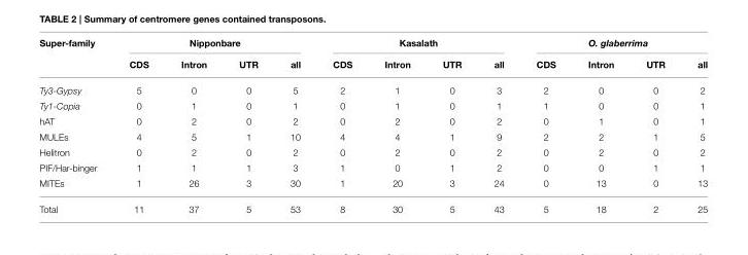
<table><thead><tr><td rowspan="2">Super-family</td><td colspan="4">Nipponbare</td><td colspan="4">Kasalath</td><td colspan="4">O. glaberrima</td></tr><tr><td>CDS</td><td>Intron</td><td>UTR</td><td>all</td><td>CDS</td><td>Intron</td><td>UTR</td><td>all</td><td>CDS</td><td>Intron</td><td>UTR</td><td>all</td></tr></thead><tbody><tr><td>Ty3-Gypsy</td><td>5</td><td>0</td><td>0</td><td>5</td><td>2</td><td>1</td><td>0</td><td>3</td><td>2</td><td>0</td><td>0</td><td>2</td></tr><tr><td>Ty1-Copia</td><td>0</td><td>1</td><td>0</td><td>1</td><td>0</td><td>1</td><td>0</td><td>1</td><td>1</td><td>0</td><td>0</td><td>1</td></tr><tr><td>hAT</td><td>0</td><td>2</td><td>0</td><td>2</td><td>0</td><td>2</td><td>0</td><td>2</td><td>0</td><td>1</td><td>0</td><td>1</td></tr><tr><td>MULEs</td><td>4</td><td>5</td><td>1</td><td>10</td><td>4</td><td>4</td><td>1</td><td>9</td><td>2</td><td>2</td><td>1</td><td>5</td></tr><tr><td>Helitron</td><td>0</td><td>2</td><td>0</td><td>2</td><td>0</td><td>2</td><td>0</td><td>2</td><td>0</td><td>2</td><td>0</td><td>2</td></tr><tr><td>PIF/Har-binger</td><td>1</td><td>1</td><td>1</td><td>3</td><td>1</td><td>0</td><td>1</td><td>2</td><td>0</td><td>0</td><td>1</td><td>1</td></tr><tr><td>MITEs</td><td>1</td><td>26</td><td>3</td><td>30</td><td>1</td><td>20</td><td>3</td><td>24</td><td>0</td><td>13</td><td>0</td><td>13</td></tr><tr><td>Total</td><td>11</td><td>37</td><td>5</td><td>53</td><td>8</td><td>30</td><td>5</td><td>43</td><td>5</td><td>18</td><td>2</td><td>25</td></tr></tbody></table>